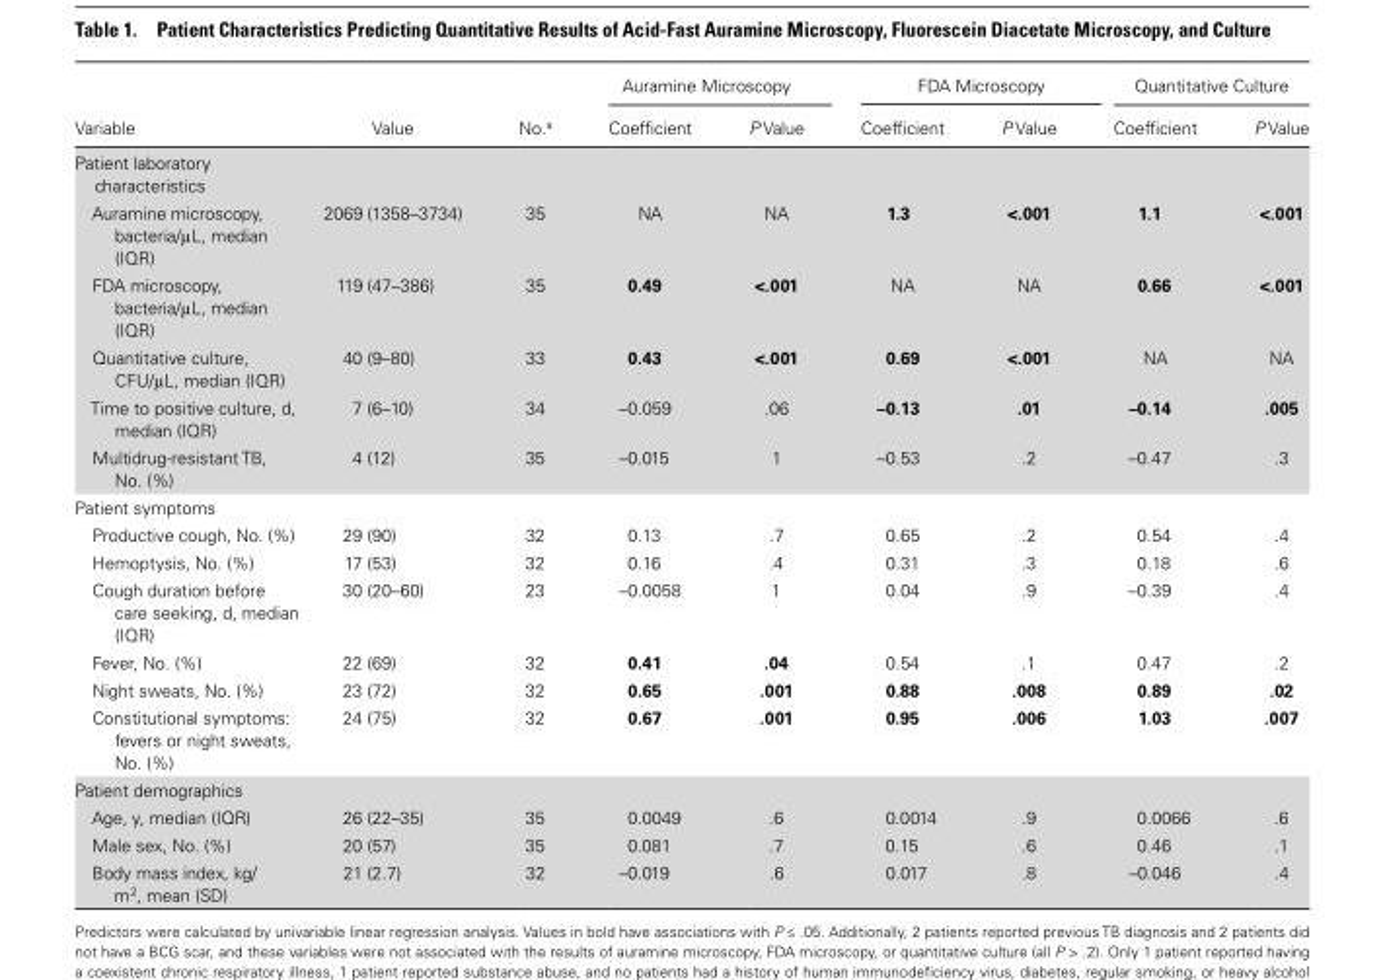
<table><thead><tr><td rowspan="2">Variable</td><td rowspan="2">Value</td><td rowspan="2">No.<sup>a</sup></td><td colspan="2">Auramine Microscopy</td><td colspan="2">FDA Microscopy</td><td colspan="2">Quantitative Culture</td></tr><tr><td>Coefficient</td><td>P Value</td><td>Coefficient</td><td>P Value</td><td>Coefficient</td><td>P Value</td></tr></thead><tbody><tr><td colspan="9">Patient laboratory characteristics</td></tr><tr><td>Auramine microscopy, bacteria/μL, median (IQR)</td><td>2069 (1358–3734)</td><td>35</td><td>NA</td><td>NA</td><td>1.3</td><td>&lt;.001</td><td>1.1</td><td>&lt;.001</td></tr><tr><td>FDA microscopy, bacteria/μL, median (IQR)</td><td>119 (47–386)</td><td>35</td><td>0.49</td><td>&lt;.001</td><td>NA</td><td>NA</td><td>0.66</td><td>&lt;.001</td></tr><tr><td>Quantitative culture, CFU/μL, median (IQR)</td><td>40 (9–80)</td><td>33</td><td>0.43</td><td>&lt;.001</td><td>0.69</td><td>&lt;.001</td><td>NA</td><td>NA</td></tr><tr><td>Time to positive culture, d, median (IQR)</td><td>7 (6–10)</td><td>34</td><td>–0.059</td><td>.06</td><td>–0.13</td><td>.01</td><td>–0.14</td><td>.005</td></tr><tr><td>Multidrug-resistant TB, No. (%)</td><td>4 (12)</td><td>35</td><td>–0.015</td><td>1</td><td>–0.53</td><td>.2</td><td>–0.47</td><td>.3</td></tr><tr><td colspan="9">Patient symptoms</td></tr><tr><td>Productive cough, No. (%)</td><td>29 (90)</td><td>32</td><td>0.13</td><td>.7</td><td>0.65</td><td>.2</td><td>0.54</td><td>.4</td></tr><tr><td>Hemoptysis, No. (%)</td><td>17 (53)</td><td>32</td><td>0.16</td><td>.4</td><td>0.31</td><td>.3</td><td>0.18</td><td>.6</td></tr><tr><td>Cough duration before care seeking, d, median (IQR)</td><td>30 (20–60)</td><td>23</td><td>–0.0058</td><td>1</td><td>0.04</td><td>.9</td><td>–0.39</td><td>.4</td></tr><tr><td>Fever, No. (%)</td><td>22 (69)</td><td>32</td><td>0.41</td><td>.04</td><td>0.54</td><td>.1</td><td>0.47</td><td>.2</td></tr><tr><td>Night sweats, No. (%)</td><td>23 (72)</td><td>32</td><td>0.65</td><td>.001</td><td>0.88</td><td>.008</td><td>0.89</td><td>.02</td></tr><tr><td>Constitutional symptoms: fevers or night sweats, No. (%)</td><td>24 (75)</td><td>32</td><td>0.67</td><td>.001</td><td>0.95</td><td>.006</td><td>1.03</td><td>.007</td></tr><tr><td colspan="9">Patient demographics</td></tr><tr><td>Age, y, median (IQR)</td><td>26 (22–35)</td><td>35</td><td>0.0049</td><td>.6</td><td>0.0014</td><td>.9</td><td>0.0066</td><td>.6</td></tr><tr><td>Male sex, No. (%)</td><td>20 (57)</td><td>35</td><td>0.081</td><td>.7</td><td>0.15</td><td>.6</td><td>0.46</td><td>.1</td></tr><tr><td>Body mass index, kg/ m<sup>2</sup>, mean (SD)</td><td>21 (2.7)</td><td>32</td><td>–0.019</td><td>.6</td><td>0.017</td><td>.8</td><td>–0.046</td><td>.4</td></tr></tbody></table>